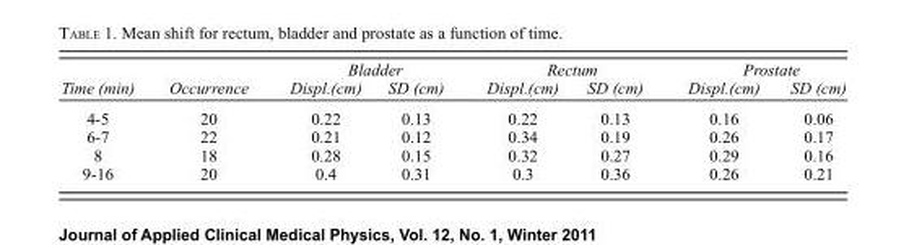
<table><thead><tr><td rowspan="2">Time (min)</td><td rowspan="2">Occurrence</td><td colspan="2">Bladder</td><td colspan="2">Rectum</td><td colspan="2">Prostate</td></tr><tr><td>Displ.(cm)</td><td>SD (cm)</td><td>Displ.(cm)</td><td>SD (cm)</td><td>Displ.(cm)</td><td>SD (cm)</td></tr></thead><tbody><tr><td>4-5</td><td>20</td><td>0.22</td><td>0.13</td><td>0.22</td><td>0.13</td><td>0.16</td><td>0.06</td></tr><tr><td>6-7</td><td>22</td><td>0.21</td><td>0.12</td><td>0.34</td><td>0.19</td><td>0.26</td><td>0.17</td></tr><tr><td>8</td><td>18</td><td>0.28</td><td>0.15</td><td>0.32</td><td>0.27</td><td>0.29</td><td>0.16</td></tr><tr><td>9-16</td><td>20</td><td>0.4</td><td>0.31</td><td>0.3</td><td>0.36</td><td>0.26</td><td>0.21</td></tr></tbody></table>